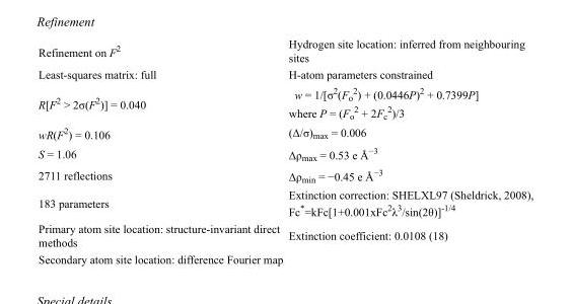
<table><tbody><tr><td>Refinement on F<sup>2</sup></td><td>Hydrogen site location: inferred from neighbouring sites</td></tr><tr><td>Least-squares matrix: full</td><td>H-atom parameters constrained</td></tr><tr><td>R[F<sup>2</sup> &gt; 2σ(F<sup>2</sup>)] = 0.040</td><td>w = 1/[σ<sup>2</sup>(F<sub>o</sub> <sup>2</sup>) + (0.0446P)<sup>2</sup> + 0.7399P] where P = (F<sub>o</sub> <sup>2</sup> + 2F<sub>c</sub> <sup>2</sup>)/3</td></tr><tr><td>wR(F<sup>2</sup>) = 0.106</td><td>(Δ/σ)<sub>max</sub> = 0.006</td></tr><tr><td>S = 1.06</td><td>Δρ<sub>max</sub> = 0.53 e Å<sup>−3</sup></td></tr><tr><td>2711 reflections</td><td>Δρ<sub>min</sub> = −0.45 e Å<sup>−3</sup></td></tr><tr><td>183 parameters</td><td>Extinction correction: SHELXL97 (Sheldrick, 2008), Fc*=kFc[1+0.001xFc<sup>2</sup>λ<sup>3</sup>/sin(2θ)]<sup>-1/4</sup></td></tr><tr><td>Primary atom site location: structure-invariant direct methods</td><td>Extinction coefficient: 0.0108 (18)</td></tr><tr><td>Secondary atom site location: difference Fourier map</td><td></td></tr></tbody></table>